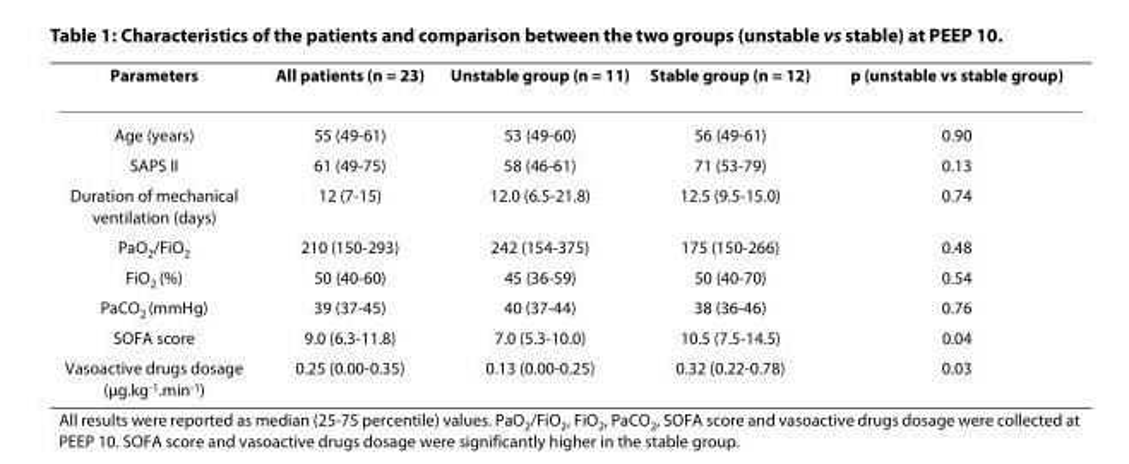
<table><thead><tr><td>Parameters</td><td>All patients (n = 23)</td><td>Unstable group (n = 11)</td><td>Stable group (n = 12)</td><td>p (unstable vs stable group)</td></tr></thead><tbody><tr><td>Age (years)</td><td>55 (49-61)</td><td>53 (49-60)</td><td>56 (49-61)</td><td>0.90</td></tr><tr><td>SAPS II</td><td>61 (49-75)</td><td>58 (46-61)</td><td>71 (53-79)</td><td>0.13</td></tr><tr><td>Duration of mechanical ventilation (days)</td><td>12 (7-15)</td><td>12.0 (6.5-21.8)</td><td>12.5 (9.5-15.0)</td><td>0.74</td></tr><tr><td>PaO<sub>2</sub>/FiO<sub>2</sub></td><td>210 (150-293)</td><td>242 (154-375)</td><td>175 (150-266)</td><td>0.48</td></tr><tr><td>FiO<sub>2</sub> (%)</td><td>50 (40-60)</td><td>45 (36-59)</td><td>50 (40-70)</td><td>0.54</td></tr><tr><td>PaCO<sub>2</sub> (mmHg)</td><td>39 (37-45)</td><td>40 (37-44)</td><td>38 (36-46)</td><td>0.76</td></tr><tr><td>SOFA score</td><td>9.0 (6.3-11.8)</td><td>7.0 (5.3-10.0)</td><td>10.5 (7.5-14.5)</td><td>0.04</td></tr><tr><td>Vasoactive drugs dosage (μg.kg<sup>-1</sup>.min<sup>-1</sup>)</td><td>0.25 (0.00-0.35)</td><td>0.13 (0.00-0.25)</td><td>0.32 (0.22-0.78)</td><td>0.03</td></tr></tbody></table>